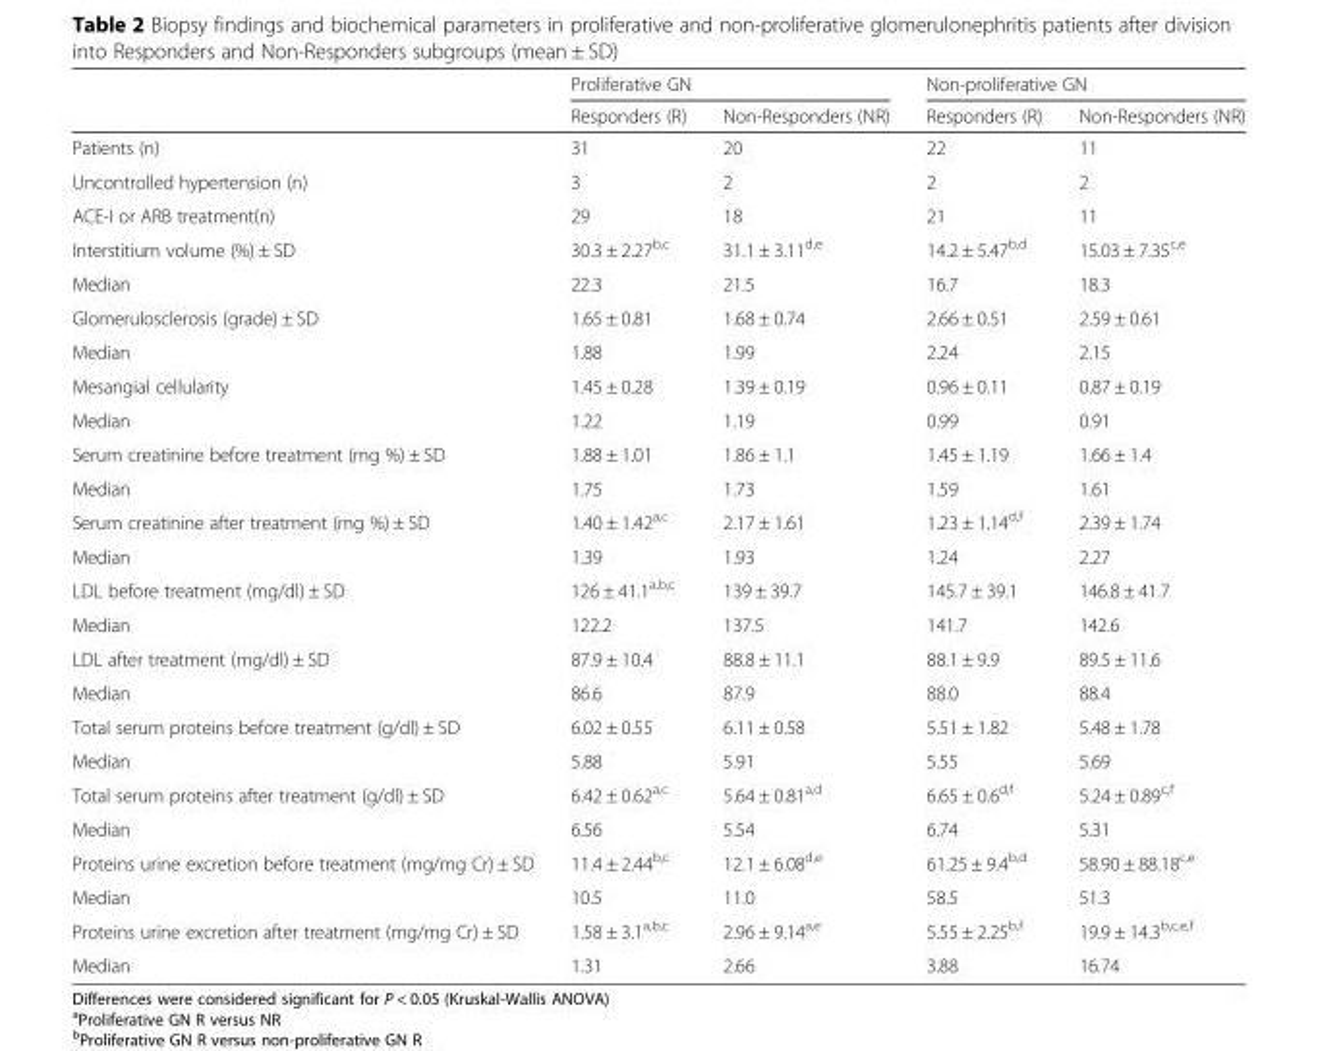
<table><thead><tr><td rowspan="2"></td><td colspan="2">Proliferative GN</td><td colspan="2">Non-proliferative GN</td></tr><tr><td>Responders (R)</td><td>Non-Responders (NR)</td><td>Responders (R)</td><td>Non-Responders (NR)</td></tr></thead><tbody><tr><td>Patients (n)</td><td>31</td><td>20</td><td>22</td><td>11</td></tr><tr><td>Uncontrolled hypertension (n)</td><td>3</td><td>2</td><td>2</td><td>2</td></tr><tr><td>ACE-I or ARB treatment(n)</td><td>29</td><td>18</td><td>21</td><td>11</td></tr><tr><td>Interstitium volume (%) ± SD</td><td>30.3 ± 2.27<sup>b,c</sup></td><td>31.1 ± 3.11<sup>d,e</sup></td><td>14.2 ± 5.47<sup>b,d</sup></td><td>15.03 ± 7.35<sup>c,e</sup></td></tr><tr><td>Median</td><td>22.3</td><td>21.5</td><td>16.7</td><td>18.3</td></tr><tr><td>Glomerulosclerosis (grade) ± SD</td><td>1.65 ± 0.81</td><td>1.68 ± 0.74</td><td>2.66 ± 0.51</td><td>2.59 ± 0.61</td></tr><tr><td>Median</td><td>1.88</td><td>1.99</td><td>2.24</td><td>2.15</td></tr><tr><td>Mesangial cellularity</td><td>1.45 ± 0.28</td><td>1.39 ± 0.19</td><td>0.96 ± 0.11</td><td>0.87 ± 0.19</td></tr><tr><td>Median</td><td>1.22</td><td>1.19</td><td>0.99</td><td>0.91</td></tr><tr><td>Serum creatinine before treatment (mg %) ± SD</td><td>1.88 ± 1.01</td><td>1.86 ± 1.1</td><td>1.45 ± 1.19</td><td>1.66 ± 1.4</td></tr><tr><td>Median</td><td>1.75</td><td>1.73</td><td>1.59</td><td>1.61</td></tr><tr><td>Serum creatinine after treatment (mg %) ± SD</td><td>1.40 ± 1.42<sup>a,c</sup></td><td>2.17 ± 1.61</td><td>1.23 ± 1.14<sup>d,f</sup></td><td>2.39 ± 1.74</td></tr><tr><td>Median</td><td>1.39</td><td>1.93</td><td>1.24</td><td>2.27</td></tr><tr><td>LDL before treatment (mg/dl) ± SD</td><td>126 ± 41.1<sup>a,b,c</sup></td><td>139 ± 39.7</td><td>145.7 ± 39.1</td><td>146.8 ± 41.7</td></tr><tr><td>Median</td><td>122.2</td><td>137.5</td><td>141.7</td><td>142.6</td></tr><tr><td>LDL after treatment (mg/dl) ± SD</td><td>87.9 ± 10.4</td><td>88.8 ± 11.1</td><td>88.1 ± 9.9</td><td>89.5 ± 11.6</td></tr><tr><td>Median</td><td>86.6</td><td>87.9</td><td>88.0</td><td>88.4</td></tr><tr><td>Total serum proteins before treatment (g/dl) ± SD</td><td>6.02 ± 0.55</td><td>6.11 ± 0.58</td><td>5.51 ± 1.82</td><td>5.48 ± 1.78</td></tr><tr><td>Median</td><td>5.88</td><td>5.91</td><td>5.55</td><td>5.69</td></tr><tr><td>Total serum proteins after treatment (g/dl) ± SD</td><td>6.42 ± 0.62<sup>a,c</sup></td><td>5.64 ± 0.81<sup>a,d</sup></td><td>6.65 ± 0.6<sup>d,f</sup></td><td>5.24 ± 0.89<sup>c,f</sup></td></tr><tr><td>Median</td><td>6.56</td><td>5.54</td><td>6.74</td><td>5.31</td></tr><tr><td>Proteins urine excretion before treatment (mg/mg Cr) ± SD</td><td>11.4 ± 2.44<sup>b,c</sup></td><td>12.1 ± 6.08<sup>d,e</sup></td><td>61.25 ± 9.4<sup>b,d</sup></td><td>58.90 ± 88.18<sup>c,e</sup></td></tr><tr><td>Median</td><td>10.5</td><td>11.0</td><td>58.5</td><td>51.3</td></tr><tr><td>Proteins urine excretion after treatment (mg/mg Cr) ± SD</td><td>1.58 ± 3.1<sup>a,b,c</sup></td><td>2.96 ± 9.14<sup>a,e</sup></td><td>5.55 ± 2.25<sup>b,f</sup></td><td>19.9 ± 14.3<sup>b,c,e,f</sup></td></tr><tr><td>Median</td><td>1.31</td><td>2.66</td><td>3.88</td><td>16.74</td></tr></tbody></table>